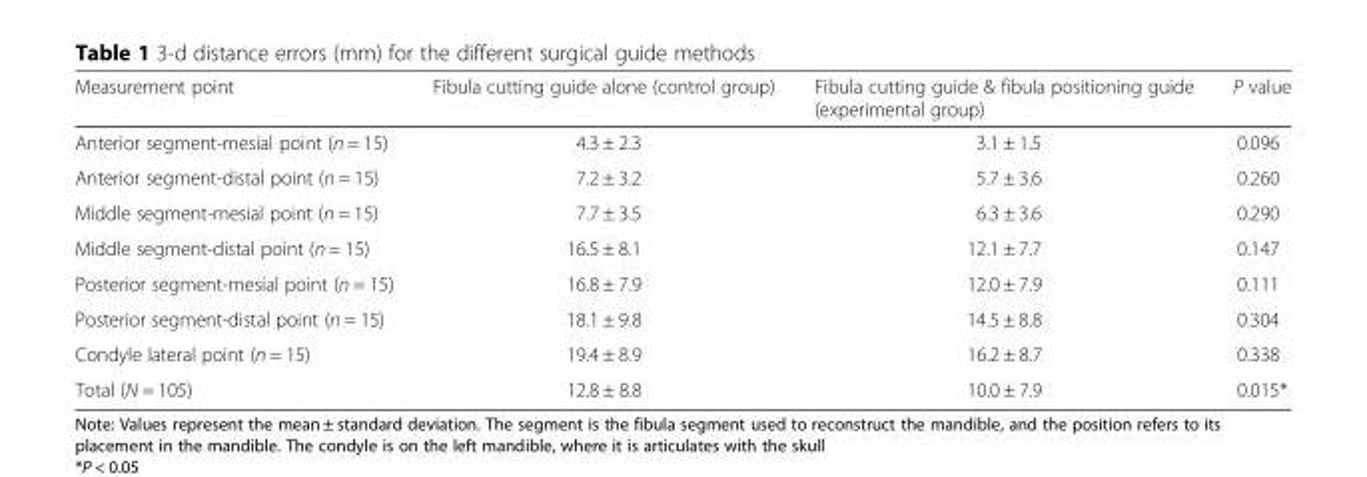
<table><thead><tr><td>Measurement point</td><td>Fibula cutting guide alone (control group)</td><td>Fibula cutting guide &amp; fibula positioning guide (experimental group)</td><td>P value</td></tr></thead><tbody><tr><td>Anterior segment-mesial point (n = 15)</td><td>4.3 ± 2.3</td><td>3.1 ± 1.5</td><td>0.096</td></tr><tr><td>Anterior segment-distal point (n = 15)</td><td>7.2 ± 3.2</td><td>5.7 ± 3.6</td><td>0.260</td></tr><tr><td>Middle segment-mesial point (n = 15)</td><td>7.7 ± 3.5</td><td>6.3 ± 3.6</td><td>0.290</td></tr><tr><td>Middle segment-distal point (n = 15)</td><td>16.5 ± 8.1</td><td>12.1 ± 7.7</td><td>0.147</td></tr><tr><td>Posterior segment-mesial point (n = 15)</td><td>16.8 ± 7.9</td><td>12.0 ± 7.9</td><td>0.111</td></tr><tr><td>Posterior segment-distal point (n = 15)</td><td>18.1 ± 9.8</td><td>14.5 ± 8.8</td><td>0.304</td></tr><tr><td>Condyle lateral point (n = 15)</td><td>19.4 ± 8.9</td><td>16.2 ± 8.7</td><td>0.338</td></tr><tr><td>Total (N = 105)</td><td>12.8 ± 8.8</td><td>10.0 ± 7.9</td><td>0.015*</td></tr></tbody></table>